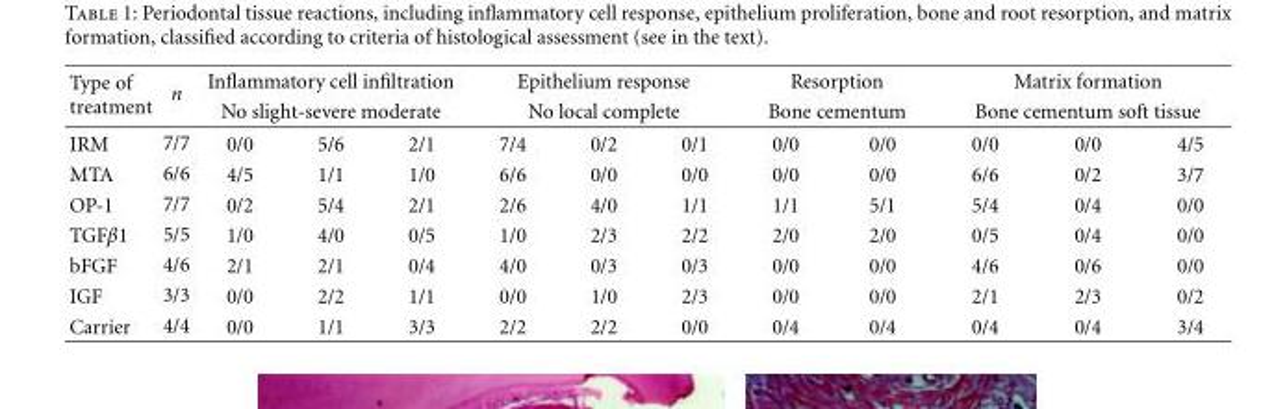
<table><thead><tr><td rowspan="3">Type of treatment IRM</td><td rowspan="3">n 7/7</td><td rowspan="2" colspan="3">Inflammatory cell infiltration No slight-severe moderate</td><td rowspan="2" colspan="3">Epithelium response No local complete</td><td rowspan="2" colspan="2">Resorption Bone cementum</td><td rowspan="2" colspan="3">Matrix formation Bone cementum soft tissue</td></tr><tr></tr><tr><td>0/0</td><td>5/6</td><td>2/1</td><td>7/4</td><td>0/2</td><td>0/1</td><td>0/0</td><td>0/0</td><td>0/0</td><td>0/0</td><td>4/5</td></tr></thead><tbody><tr><td>MTA</td><td>6/6</td><td>4/5</td><td>1/1</td><td>1/0</td><td>6/6</td><td>0/0</td><td>0/0</td><td>0/0</td><td>0/0</td><td>6/6</td><td>0/2</td><td>3/7</td></tr><tr><td>OP-1</td><td>7/7</td><td>0/2</td><td>5/4</td><td>2/1</td><td>2/6</td><td>4/0</td><td>1/1</td><td>1/1</td><td>5/1</td><td>5/4</td><td>0/4</td><td>0/0</td></tr><tr><td>TGFβ1</td><td>5/5</td><td>1/0</td><td>4/0</td><td>0/5</td><td>1/0</td><td>2/3</td><td>2/2</td><td>2/0</td><td>2/0</td><td>0/5</td><td>0/4</td><td>0/0</td></tr><tr><td>bFGF</td><td>4/6</td><td>2/1</td><td>2/1</td><td>0/4</td><td>4/0</td><td>0/3</td><td>0/3</td><td>0/0</td><td>0/0</td><td>4/6</td><td>0/6</td><td>0/0</td></tr><tr><td>IGF</td><td>3/3</td><td>0/0</td><td>2/2</td><td>1/1</td><td>0/0</td><td>1/0</td><td>2/3</td><td>0/0</td><td>0/0</td><td>2/1</td><td>2/3</td><td>0/2</td></tr><tr><td>Carrier</td><td>4/4</td><td>0/0</td><td>1/1</td><td>3/3</td><td>2/2</td><td>2/2</td><td>0/0</td><td>0/4</td><td>0/4</td><td>0/4</td><td>0/4</td><td>3/4</td></tr></tbody></table>